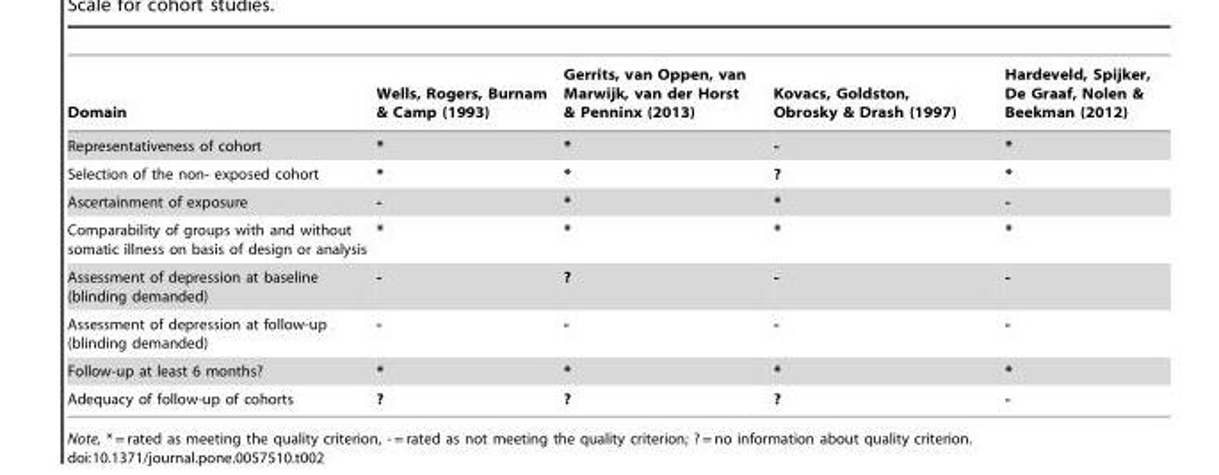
<table><thead><tr><td>Domain</td><td>Wells, Rogers, Burnam &amp; Camp (1993)</td><td>Gerrits, van Oppen, van Marwijk, van der Horst &amp; Penninx (2013)</td><td>Kovacs, Goldston, Obrosky &amp; Drash (1997)</td><td>Hardeveld, Spijker, De Graaf, Nolen &amp; Beekman (2012)</td></tr></thead><tbody><tr><td>Representativeness of cohort</td><td>*</td><td>*</td><td>-</td><td>*</td></tr><tr><td>Selection of the non- exposed cohort</td><td>*</td><td>*</td><td>?</td><td>*</td></tr><tr><td>Ascertainment of exposure</td><td>-</td><td>*</td><td>*</td><td>-</td></tr><tr><td>Comparability of groups with and without somatic illness on basis of design or analysis</td><td>*</td><td>*</td><td>*</td><td>*</td></tr><tr><td>Assessment of depression at baseline (blinding demanded)</td><td>-</td><td>?</td><td>-</td><td>-</td></tr><tr><td>Assessment of depression at follow-up (blinding demanded)</td><td>-</td><td>-</td><td>-</td><td>-</td></tr><tr><td>Follow-up at least 6 months?</td><td>*</td><td>*</td><td>*</td><td>*</td></tr><tr><td>Adequacy of follow-up of cohorts</td><td>?</td><td>?</td><td>?</td><td>-</td></tr></tbody></table>